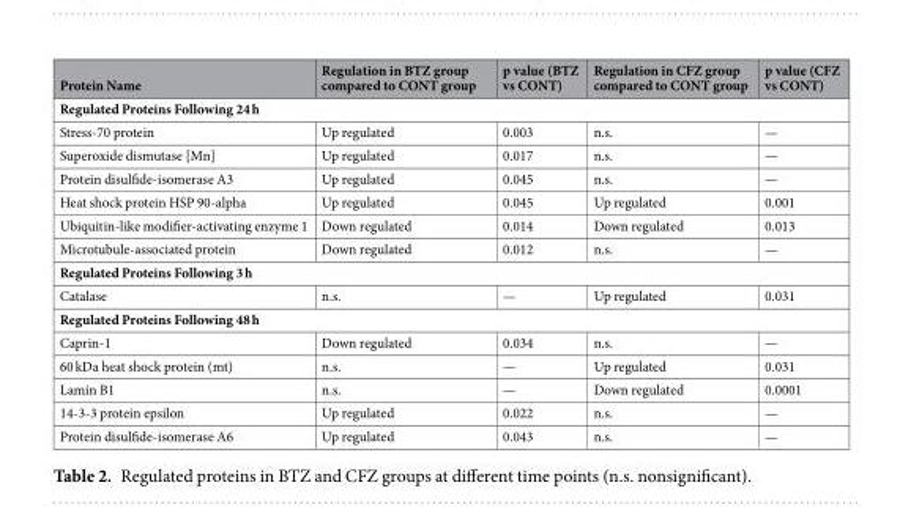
<table><thead><tr><td>Protein Name</td><td>Regulation in BTZ group compared to CONT group</td><td>p value (BTZ vs CONT)</td><td>Regulation in CFZ group compared to CONT group</td><td>p value (CFZ vs CONT)</td></tr></thead><tbody><tr><td colspan="5">Regulated Proteins Following 24 h</td></tr><tr><td>Stress-70 protein</td><td>Up regulated</td><td>0.003</td><td>n.s.</td><td>—</td></tr><tr><td>Superoxide dismutase [Mn]</td><td>Up regulated</td><td>0.017</td><td>n.s.</td><td>—</td></tr><tr><td>Protein disulfide-isomerase A3</td><td>Up regulated</td><td>0.045</td><td>n.s.</td><td>—</td></tr><tr><td>Heat shock protein HSP 90-alpha</td><td>Up regulated</td><td>0.045</td><td>Up regulated</td><td>0.001</td></tr><tr><td>Ubiquitin-like modifier-activating enzyme 1</td><td>Down regulated</td><td>0.014</td><td>Down regulated</td><td>0.013</td></tr><tr><td>Microtubule-associated protein</td><td>Down regulated</td><td>0.012</td><td>n.s.</td><td>—</td></tr><tr><td colspan="5">Regulated Proteins Following 3 h</td></tr><tr><td>Catalase</td><td>n.s.</td><td>—</td><td>Up regulated</td><td>0.031</td></tr><tr><td colspan="5">Regulated Proteins Following 48 h</td></tr><tr><td>Caprin-1</td><td>Down regulated</td><td>0.034</td><td>n.s.</td><td>—</td></tr><tr><td>60 kDa heat shock protein (mt)</td><td>n.s.</td><td>—</td><td>Up regulated</td><td>0.031</td></tr><tr><td>Lamin B1</td><td>n.s.</td><td>—</td><td>Down regulated</td><td>0.0001</td></tr><tr><td>14-3-3 protein epsilon</td><td>Up regulated</td><td>0.022</td><td>n.s.</td><td>—</td></tr><tr><td>Protein disulfide-isomerase A6</td><td>Up regulated</td><td>0.043</td><td>n.s.</td><td>—</td></tr></tbody></table>